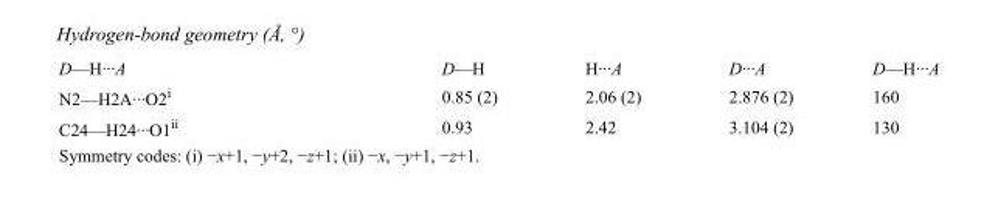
<table><tbody><tr><td>D—H···A</td><td>D—H</td><td>H···A</td><td>D···A</td><td>D—H···A</td></tr><tr><td>N2—H2A···O2<sup>i</sup></td><td>0.85 (2)</td><td>2.06 (2)</td><td>2.876 (2)</td><td>160</td></tr><tr><td>C24—H24···O1<sup>ii</sup></td><td>0.93</td><td>2.42</td><td>3.104 (2)</td><td>130</td></tr></tbody></table>